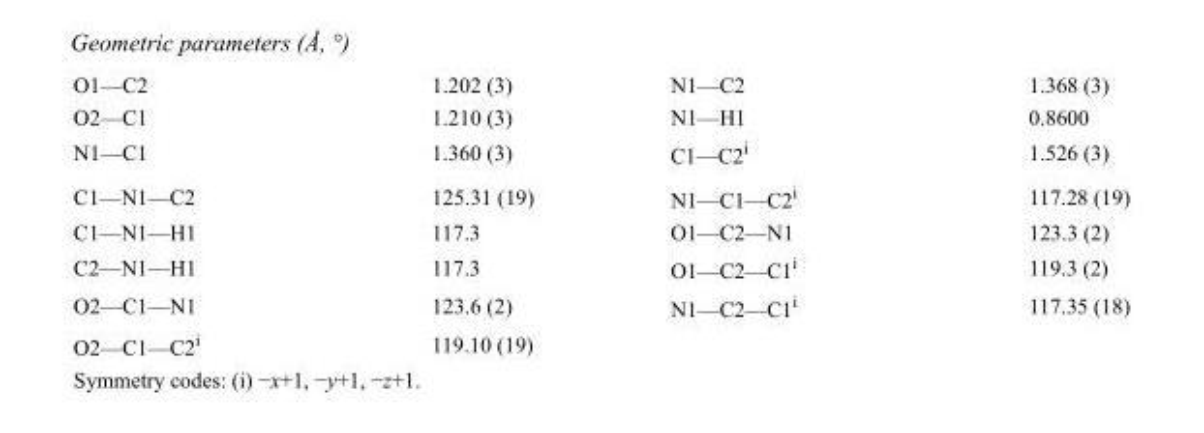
<table><tbody><tr><td>O1—C2</td><td>1.202 (3)</td><td>N1—C2</td><td>1.368 (3)</td></tr><tr><td>O2—C1</td><td>1.210 (3)</td><td>N1—H1</td><td>0.8600</td></tr><tr><td>N1—C1</td><td>1.360 (3)</td><td>C1—C2<sup>i</sup></td><td>1.526 (3)</td></tr><tr><td>C1—N1—C2</td><td>125.31 (19)</td><td>N1—C1—C2<sup>i</sup></td><td>117.28 (19)</td></tr><tr><td>C1—N1—H1</td><td>117.3</td><td>O1—C2—N1</td><td>123.3 (2)</td></tr><tr><td>C2—N1—H1</td><td>117.3</td><td>O1—C2—C1<sup>i</sup></td><td>119.3 (2)</td></tr><tr><td>O2—C1—N1</td><td>123.6 (2)</td><td>N1—C2—C1<sup>i</sup></td><td>117.35 (18)</td></tr><tr><td>O2—C1—C2<sup>i</sup></td><td>119.10 (19)</td><td></td><td></td></tr></tbody></table>